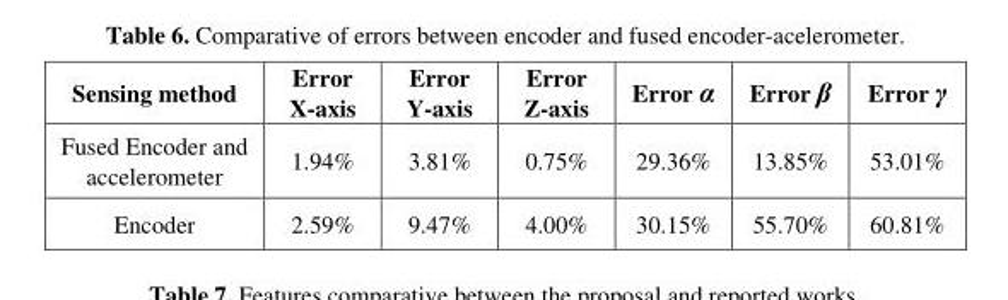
<table><thead><tr><td>Sensing method</td><td>Error X-axis</td><td>Error Y-axis</td><td>Error Z-axis</td><td>Error α</td><td>Error β</td><td>Error γ</td></tr></thead><tbody><tr><td>Fused Encoder and accelerometer</td><td>1.94%</td><td>3.81%</td><td>0.75%</td><td>29.36%</td><td>13.85%</td><td>53.01%</td></tr><tr><td>Encoder</td><td>2.59%</td><td>9.47%</td><td>4.00%</td><td>30.15%</td><td>55.70%</td><td>60.81%</td></tr></tbody></table>